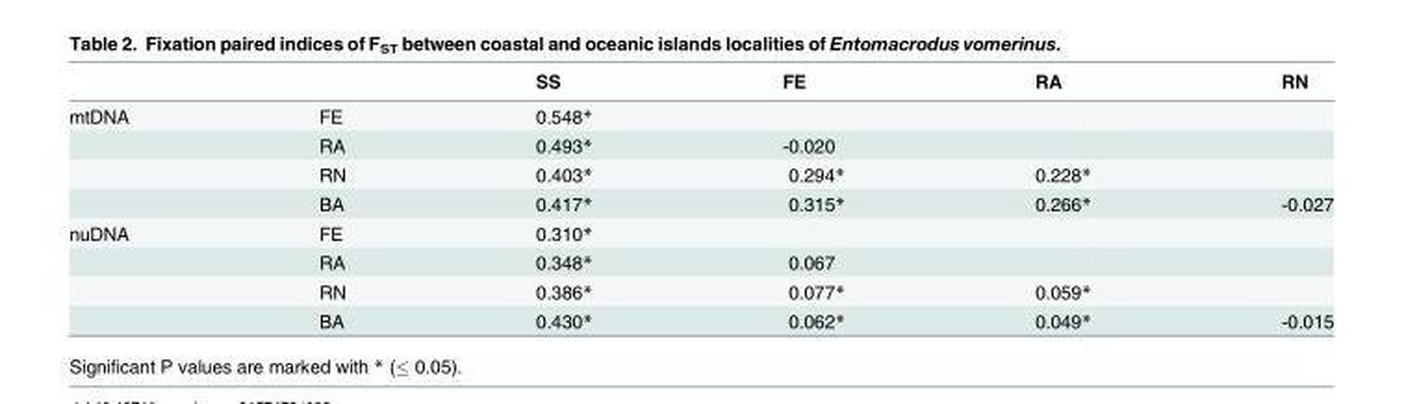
<table><thead><tr><td></td><td></td><td>SS</td><td>FE</td><td>RA</td><td>RN</td></tr></thead><tbody><tr><td rowspan="4">mtDNA</td><td>FE</td><td>0.548*</td><td></td><td></td><td></td></tr><tr><td>RA</td><td>0.493*</td><td>-0.020</td><td></td><td></td></tr><tr><td>RN</td><td>0.403*</td><td>0.294*</td><td>0.228*</td><td></td></tr><tr><td>BA</td><td>0.417*</td><td>0.315*</td><td>0.266*</td><td>-0.027</td></tr><tr><td rowspan="4">nuDNA</td><td>FE</td><td>0.310*</td><td></td><td></td><td></td></tr><tr><td>RA</td><td>0.348*</td><td>0.067</td><td></td><td></td></tr><tr><td>RN</td><td>0.386*</td><td>0.077*</td><td>0.059*</td><td></td></tr><tr><td>BA</td><td>0.430*</td><td>0.062*</td><td>0.049*</td><td>-0.015</td></tr></tbody></table>